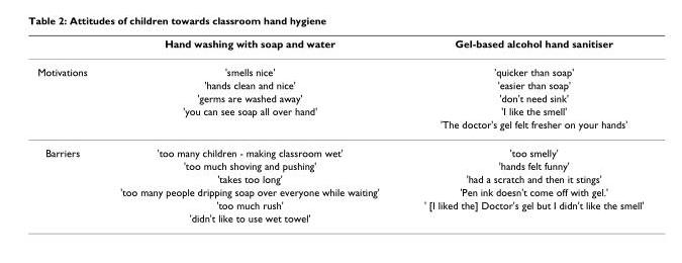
<table><thead><tr><td></td><td>Hand washing with soap and water</td><td>Gel-based alcohol hand sanitiser</td></tr></thead><tbody><tr><td rowspan="5">Motivations</td><td>&#x27;smells nice&#x27;</td><td>&#x27;quicker than soap&#x27;</td></tr><tr><td>&#x27;hands clean and nice&#x27;</td><td>&#x27;easier than soap&#x27;</td></tr><tr><td>&#x27;germs are washed away&#x27;</td><td>&#x27;don&#x27;t need sink&#x27;</td></tr><tr><td>&#x27;you can see soap all over hand&#x27;</td><td>&#x27;I like the smell&#x27;</td></tr><tr><td></td><td>&#x27;The doctor&#x27;s gel felt fresher on your hands&#x27;</td></tr><tr><td rowspan="6">Barriers</td><td>&#x27;too many children - making classroom wet&#x27;</td><td>&#x27;too smelly&#x27;</td></tr><tr><td>&#x27;too much shoving and pushing&#x27;</td><td>&#x27;hands felt funny&#x27;</td></tr><tr><td>&#x27;takes too long&#x27;</td><td>&#x27;had a scratch and then it stings&#x27;</td></tr><tr><td>&#x27;too many people dripping soap over everyone while waiting&#x27;</td><td>&#x27;Pen ink doesn&#x27;t come off with gel.&#x27;</td></tr><tr><td>&#x27;too much rush&#x27;</td><td>&#x27; [I liked the] Doctor&#x27;s gel but I didn&#x27;t like the smell&#x27;</td></tr><tr><td>&#x27;didn&#x27;t like to use wet towel&#x27;</td><td></td></tr></tbody></table>